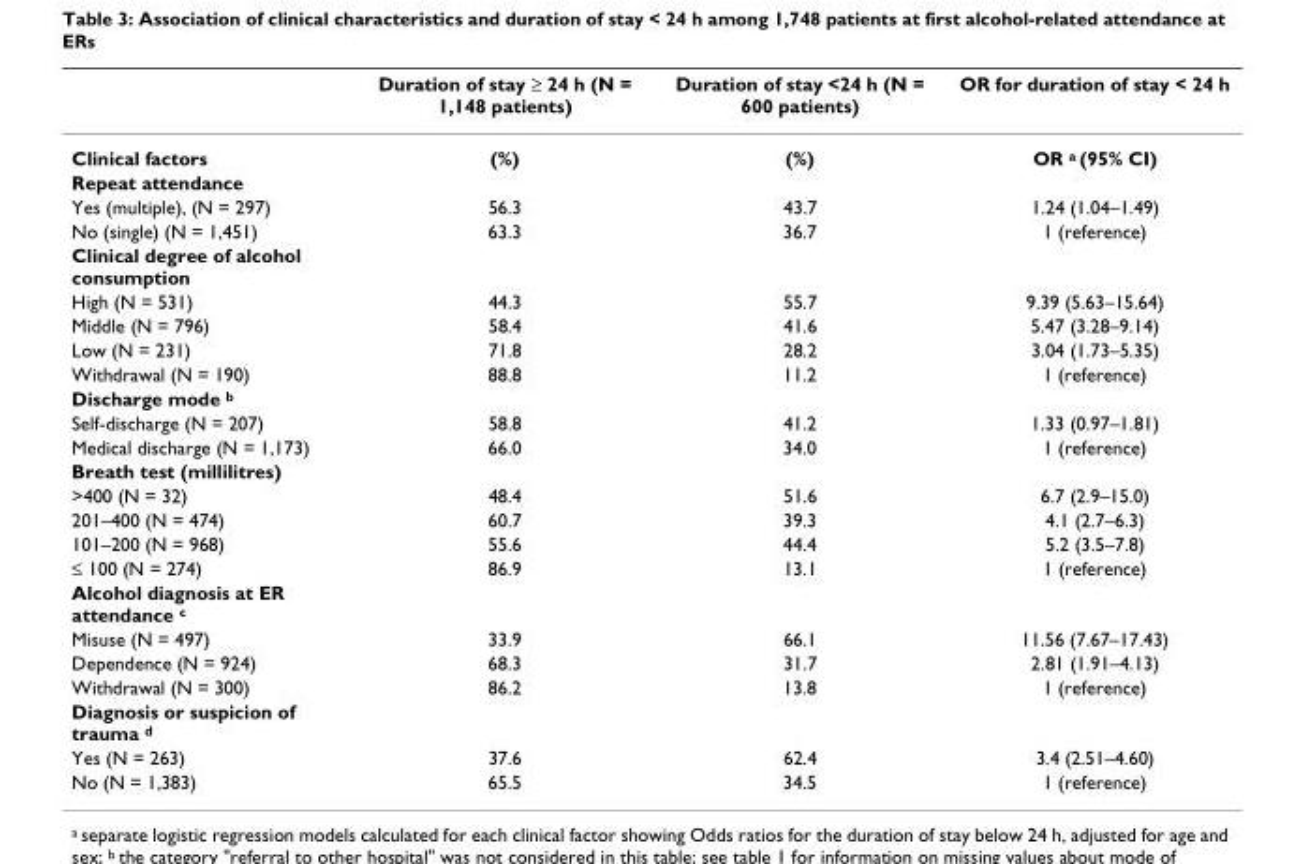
<table><thead><tr><td></td><td>Duration of stay ≥ 24 h (N = 1,148 patients)</td><td>Duration of stay &lt;24 h (N = 600 patients)</td><td>OR for duration of stay &lt; 24 h</td></tr></thead><tbody><tr><td>Clinical factors</td><td>(%)</td><td>(%)</td><td>OR <sup>a</sup> (95% CI)</td></tr><tr><td colspan="4">Repeat attendance</td></tr><tr><td>Yes (multiple), (N = 297)</td><td>56.3</td><td>43.7</td><td>1.24 (1.04–1.49)</td></tr><tr><td>No (single) (N = 1,451)</td><td>63.3</td><td>36.7</td><td>1 (reference)</td></tr><tr><td colspan="4">Clinical degree of alcohol consumption</td></tr><tr><td>High (N = 531)</td><td>44.3</td><td>55.7</td><td>9.39 (5.63–15.64)</td></tr><tr><td>Middle (N = 796)</td><td>58.4</td><td>41.6</td><td>5.47 (3.28–9.14)</td></tr><tr><td>Low (N = 231)</td><td>71.8</td><td>28.2</td><td>3.04 (1.73–5.35)</td></tr><tr><td>Withdrawal (N = 190)</td><td>88.8</td><td>11.2</td><td>1 (reference)</td></tr><tr><td colspan="4">Discharge mode <sup>b</sup></td></tr><tr><td>Self-discharge (N = 207)</td><td>58.8</td><td>41.2</td><td>1.33 (0.97–1.81)</td></tr><tr><td>Medical discharge (N = 1,173)</td><td>66.0</td><td>34.0</td><td>1 (reference)</td></tr><tr><td colspan="4">Breath test (millilitres)</td></tr><tr><td>&gt;400 (N = 32)</td><td>48.4</td><td>51.6</td><td>6.7 (2.9–15.0)</td></tr><tr><td>201–400 (N = 474)</td><td>60.7</td><td>39.3</td><td>4.1 (2.7–6.3)</td></tr><tr><td>101–200 (N = 968)</td><td>55.6</td><td>44.4</td><td>5.2 (3.5–7.8)</td></tr><tr><td>≤ 100 (N = 274)</td><td>86.9</td><td>13.1</td><td>1 (reference)</td></tr><tr><td colspan="4">Alcohol diagnosis at ER attendance <sup>c</sup></td></tr><tr><td>Misuse (N = 497)</td><td>33.9</td><td>66.1</td><td>11.56 (7.67–17.43)</td></tr><tr><td>Dependence (N = 924)</td><td>68.3</td><td>31.7</td><td>2.81 (1.91–4.13)</td></tr><tr><td>Withdrawal (N = 300)</td><td>86.2</td><td>13.8</td><td>1 (reference)</td></tr><tr><td colspan="4">Diagnosis or suspicion of trauma <sup>d</sup></td></tr><tr><td>Yes (N = 263)</td><td>37.6</td><td>62.4</td><td>3.4 (2.51–4.60)</td></tr><tr><td>No (N = 1,383)</td><td>65.5</td><td>34.5</td><td>1 (reference)</td></tr></tbody></table>